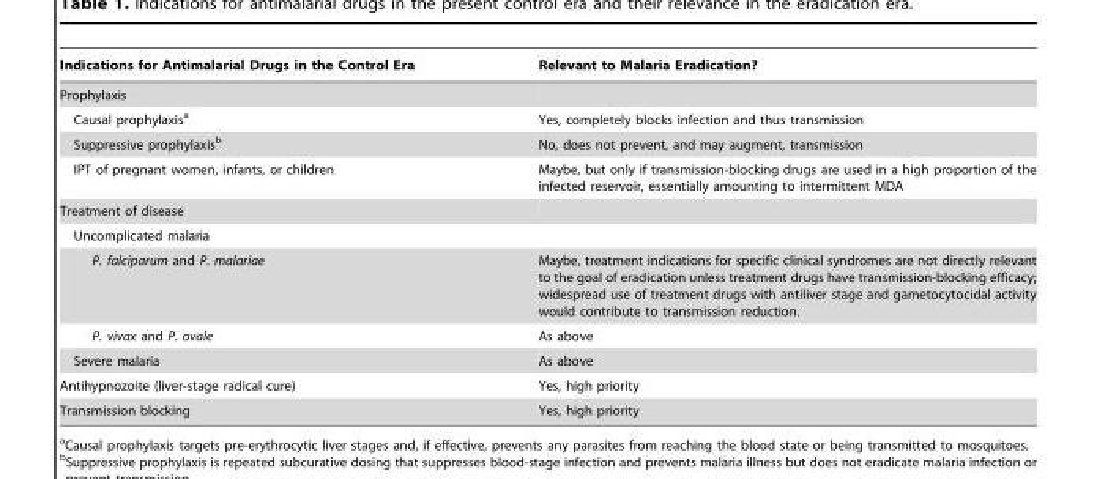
<table><thead><tr><td>Indications for Antimalarial Drugs in the Control Era</td><td>Relevant to Malaria Eradication?</td></tr></thead><tbody><tr><td colspan="2">Prophylaxis</td></tr><tr><td>Causal prophylaxis<sup>a</sup></td><td>Yes, completely blocks infection and thus transmission</td></tr><tr><td>Suppressive prophylaxis<sup>b</sup></td><td>No, does not prevent, and may augment, transmission</td></tr><tr><td>IPT of pregnant women, infants, or children</td><td>Maybe, but only if transmission-blocking drugs are used in a high proportion of the infected reservoir, essentially amounting to intermittent MDA</td></tr><tr><td colspan="2">Treatment of disease</td></tr><tr><td colspan="2">Uncomplicated malaria</td></tr><tr><td>P. falciparum and P. malariae</td><td>Maybe, treatment indications for specific clinical syndromes are not directly relevant to the goal of eradication unless treatment drugs have transmission-blocking efficacy; widespread use of treatment drugs with antiliver stage and gametocytocidal activity would contribute to transmission reduction.</td></tr><tr><td>P. vivax and P. ovale</td><td>As above</td></tr><tr><td>Severe malaria</td><td>As above</td></tr><tr><td>Antihypnozoite (liver-stage radical cure)</td><td>Yes, high priority</td></tr><tr><td>Transmission blocking</td><td>Yes, high priority</td></tr></tbody></table>